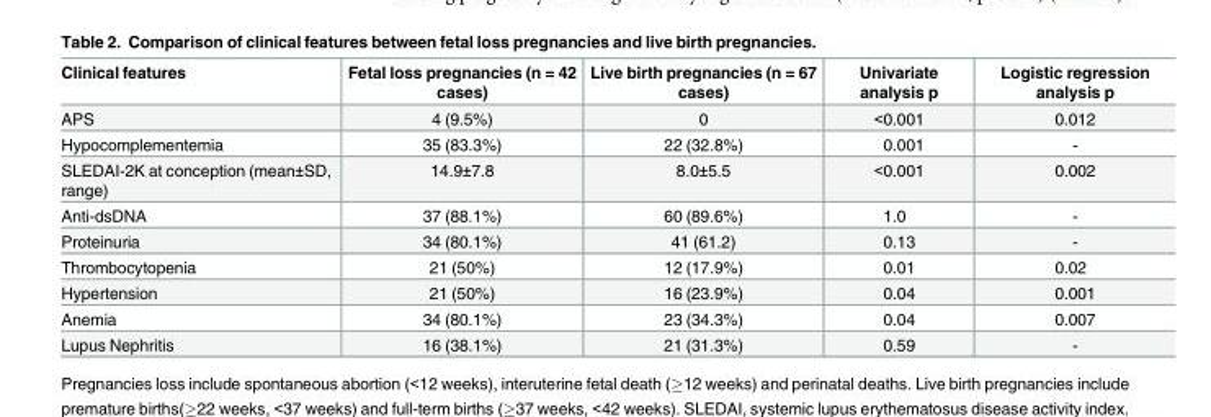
<table><thead><tr><td>Clinical features</td><td>Fetal loss pregnancies (n = 42 cases)</td><td>Live birth pregnancies (n = 67 cases)</td><td>Univariate analysis p</td><td>Logistic regression analysis p</td></tr></thead><tbody><tr><td>APS</td><td>4 (9.5%)</td><td>0</td><td>&lt;0.001</td><td>0.012</td></tr><tr><td>Hypocomplementemia</td><td>35 (83.3%)</td><td>22 (32.8%)</td><td>0.001</td><td>-</td></tr><tr><td>SLEDAI-2K at conception (mean±SD, range)</td><td>14.9±7.8</td><td>8.0±5.5</td><td>&lt;0.001</td><td>0.002</td></tr><tr><td>Anti-dsDNA</td><td>37 (88.1%)</td><td>60 (89.6%)</td><td>1.0</td><td>-</td></tr><tr><td>Proteinuria</td><td>34 (80.1%)</td><td>41 (61.2)</td><td>0.13</td><td>-</td></tr><tr><td>Thrombocytopenia</td><td>21 (50%)</td><td>12 (17.9%)</td><td>0.01</td><td>0.02</td></tr><tr><td>Hypertension</td><td>21 (50%)</td><td>16 (23.9%)</td><td>0.04</td><td>0.001</td></tr><tr><td>Anemia</td><td>34 (80.1%)</td><td>23 (34.3%)</td><td>0.04</td><td>0.007</td></tr><tr><td>Lupus Nephritis</td><td>16 (38.1%)</td><td>21 (31.3%)</td><td>0.59</td><td>-</td></tr></tbody></table>